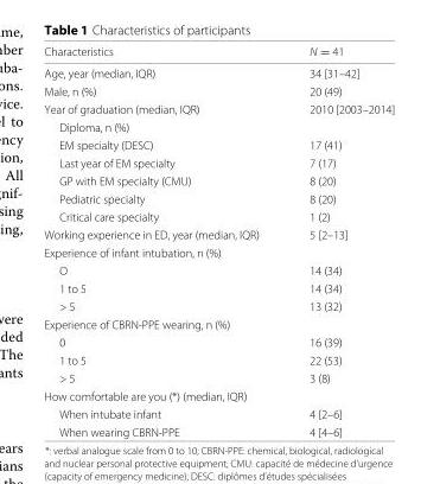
<table><thead><tr><td>Characteristics</td><td>N = 41</td></tr></thead><tbody><tr><td>Age, year (median, IQR)</td><td>34 [31–42]</td></tr><tr><td>Male, n (%)</td><td>20 (49)</td></tr><tr><td>Year of graduation (median, IQR)</td><td>2010 [2003–2014]</td></tr><tr><td colspan="2">Diploma, n (%)</td></tr><tr><td>EM specialty (DESC)</td><td>17 (41)</td></tr><tr><td>Last year of EM specialty</td><td>7 (17)</td></tr><tr><td>GP with EM specialty (CMU)</td><td>8 (20)</td></tr><tr><td>Pediatric specialty</td><td>8 (20)</td></tr><tr><td>Critical care specialty</td><td>1 (2)</td></tr><tr><td>Working experience in ED, year (median, IQR)</td><td>5 [2–13]</td></tr><tr><td colspan="2">Experience of infant intubation, n (%)</td></tr><tr><td>O</td><td>14 (34)</td></tr><tr><td>1 to 5</td><td>14 (34)</td></tr><tr><td>&gt; 5</td><td>13 (32)</td></tr><tr><td colspan="2">Experience of CBRN-PPE wearing, n (%)</td></tr><tr><td>0</td><td>16 (39)</td></tr><tr><td>1 to 5</td><td>22 (53)</td></tr><tr><td>&gt; 5</td><td>3 (8)</td></tr><tr><td colspan="2">How comfortable are you (*) (median, IQR)</td></tr><tr><td>When intubate infant</td><td>4 [2–6]</td></tr><tr><td>When wearing CBRN-PPE</td><td>4 [4–6]</td></tr></tbody></table>